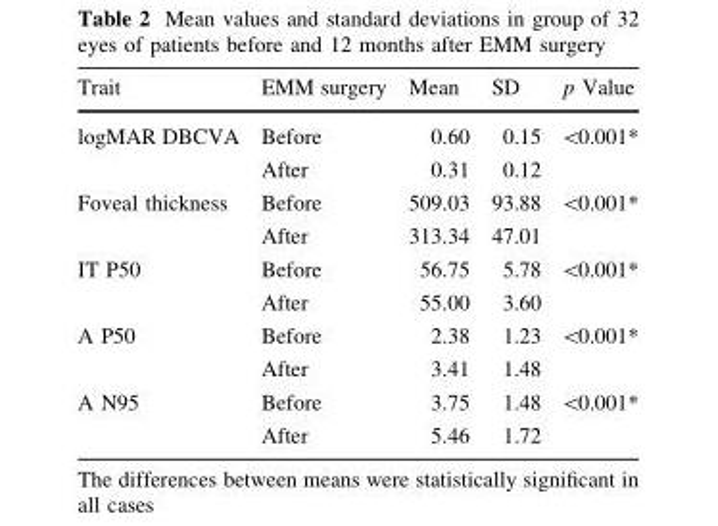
<table><thead><tr><td>Trait</td><td>EMM surgery</td><td>Mean</td><td>SD</td><td>p Value</td></tr></thead><tbody><tr><td rowspan="2">logMAR DBCVA</td><td>Before</td><td>0.60</td><td>0.15</td><td rowspan="2">&lt;0.001*</td></tr><tr><td>After</td><td>0.31</td><td>0.12</td></tr><tr><td rowspan="2">Foveal thickness</td><td>Before</td><td>509.03</td><td>93.88</td><td rowspan="2">&lt;0.001*</td></tr><tr><td>After</td><td>313.34</td><td>47.01</td></tr><tr><td rowspan="2">IT P50</td><td>Before</td><td>56.75</td><td>5.78</td><td rowspan="2">&lt;0.001*</td></tr><tr><td>After</td><td>55.00</td><td>3.60</td></tr><tr><td rowspan="2">A P50</td><td>Before</td><td>2.38</td><td>1.23</td><td rowspan="2">&lt;0.001*</td></tr><tr><td>After</td><td>3.41</td><td>1.48</td></tr><tr><td rowspan="2">A N95</td><td>Before</td><td>3.75</td><td>1.48</td><td rowspan="2">&lt;0.001*</td></tr><tr><td>After</td><td>5.46</td><td>1.72</td></tr></tbody></table>